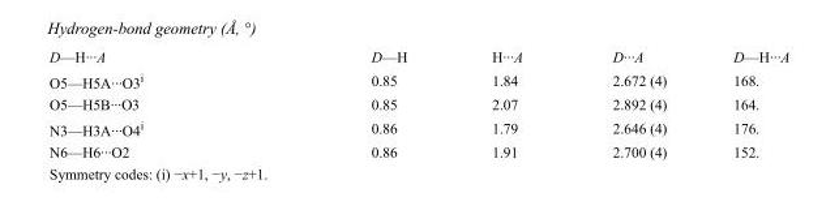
<table><tbody><tr><td>D—H···A</td><td>D—H</td><td>H···A</td><td>D···A</td><td>D—H···A</td></tr><tr><td>O5—H5A···O3<sup>i</sup></td><td>0.85</td><td>1.84</td><td>2.672 (4)</td><td>168.</td></tr><tr><td>O5—H5B···O3</td><td>0.85</td><td>2.07</td><td>2.892 (4)</td><td>164.</td></tr><tr><td>N3—H3A···O4<sup>i</sup></td><td>0.86</td><td>1.79</td><td>2.646 (4)</td><td>176.</td></tr><tr><td>N6—H6···O2</td><td>0.86</td><td>1.91</td><td>2.700 (4)</td><td>152.</td></tr></tbody></table>